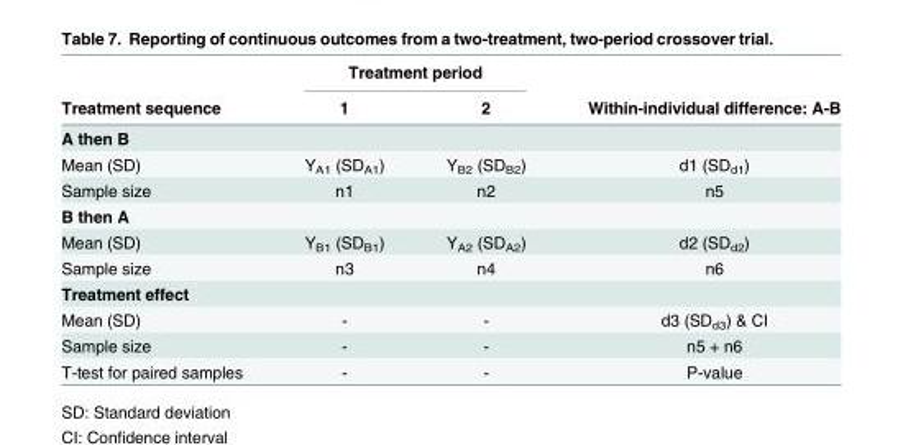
<table><thead><tr><td rowspan="2">Treatment sequence</td><td colspan="2">Treatment period</td><td rowspan="2">Within-individual difference: A-B</td></tr><tr><td>1</td><td>2</td></tr></thead><tbody><tr><td colspan="4">A then B</td></tr><tr><td>Mean (SD)</td><td>Y<sub>A1</sub> (SD<sub>A1</sub>)</td><td>Y<sub>B2</sub> (SD<sub>B2</sub>)</td><td>d1 (SD<sub>d1</sub>)</td></tr><tr><td>Sample size</td><td>n1</td><td>n2</td><td>n5</td></tr><tr><td colspan="4">B then A</td></tr><tr><td>Mean (SD)</td><td>Y<sub>B1</sub> (SD<sub>B1</sub>)</td><td>Y<sub>A2</sub> (SD<sub>A2</sub>)</td><td>d2 (SD<sub>d2</sub>)</td></tr><tr><td>Sample size</td><td>n3</td><td>n4</td><td>n6</td></tr><tr><td colspan="4">Treatment effect</td></tr><tr><td>Mean (SD)</td><td>-</td><td>-</td><td>d3 (SD<sub>d3</sub>) &amp; CI</td></tr><tr><td>Sample size</td><td>-</td><td>-</td><td>n5 + n6</td></tr><tr><td>T-test for paired samples</td><td>-</td><td>-</td><td>P-value</td></tr></tbody></table>